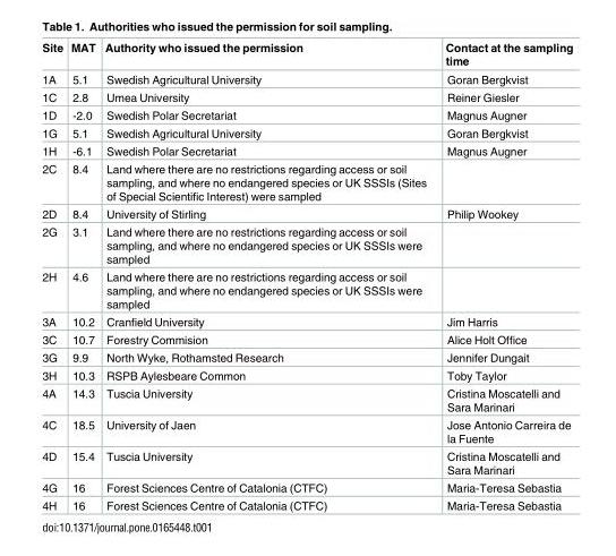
<table><thead><tr><td>Site</td><td>MAT</td><td>Authority who issued the permission</td><td>Contact at the sampling time</td></tr></thead><tbody><tr><td>1A</td><td>5.1</td><td>Swedish Agricultural University</td><td>Goran Bergkvist</td></tr><tr><td>1C</td><td>2.8</td><td>Umea University</td><td>Reiner Giesler</td></tr><tr><td>1D</td><td>-2.0</td><td>Swedish Polar Secretariat</td><td>Magnus Augner</td></tr><tr><td>1G</td><td>5.1</td><td>Swedish Agricultural University</td><td>Goran Bergkvist</td></tr><tr><td>1H</td><td>-6.1</td><td>Swedish Polar Secretariat</td><td>Magnus Augner</td></tr><tr><td>2C</td><td>8.4</td><td>Land where there are no restrictions regarding access or soil sampling, and where no endangered species or UK SSSIs (Sites of Special Scientific Interest) were sampled</td><td></td></tr><tr><td>2D</td><td>8.4</td><td>University of Stirling</td><td>Philip Wookey</td></tr><tr><td>2G</td><td>3.1</td><td>Land where there are no restrictions regarding access or soil sampling, and where no endangered species or UK SSSIs were sampled</td><td></td></tr><tr><td>2H</td><td>4.6</td><td>Land where there are no restrictions regarding access or soil sampling, and where no endangered species or UK SSSIs were sampled</td><td></td></tr><tr><td>3A</td><td>10.2</td><td>Cranfield University</td><td>Jim Harris</td></tr><tr><td>3C</td><td>10.7</td><td>Forestry Commision</td><td>Alice Holt Office</td></tr><tr><td>3G</td><td>9.9</td><td>North Wyke, Rothamsted Research</td><td>Jennifer Dungait</td></tr><tr><td>3H</td><td>10.3</td><td>RSPB Aylesbeare Common</td><td>Toby Taylor</td></tr><tr><td>4A</td><td>14.3</td><td>Tuscia University</td><td>Cristina Moscatelli and Sara Marinari</td></tr><tr><td>4C</td><td>18.5</td><td>University of Jaen</td><td>Jose Antonio Carreira de la Fuente</td></tr><tr><td>4D</td><td>15.4</td><td>Tuscia University</td><td>Cristina Moscatelli and Sara Marinari</td></tr><tr><td>4G</td><td>16</td><td>Forest Sciences Centre of Catalonia (CTFC)</td><td>Maria-Teresa Sebastia</td></tr><tr><td>4H</td><td>16</td><td>Forest Sciences Centre of Catalonia (CTFC)</td><td>Maria-Teresa Sebastia</td></tr></tbody></table>